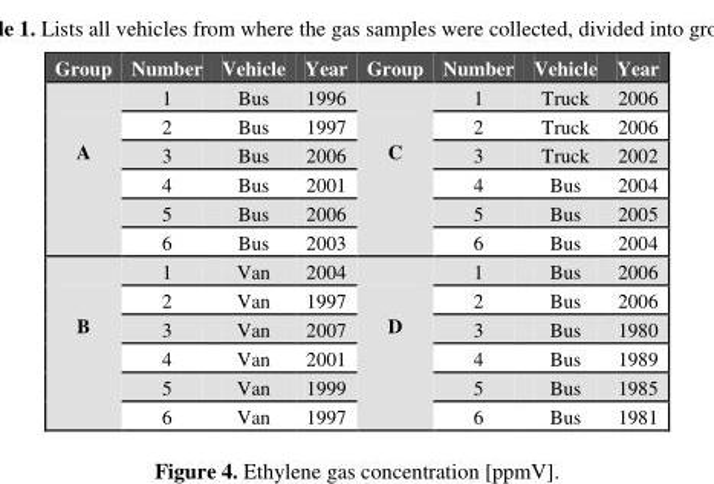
<table><thead><tr><td>Group</td><td>Number</td><td>Vehicle</td><td>Year</td><td>Group</td><td>Number</td><td>Vehicle</td><td>Year</td></tr></thead><tbody><tr><td rowspan="6">A</td><td>1</td><td>Bus</td><td>1996</td><td rowspan="6">C</td><td>1</td><td>Truck</td><td>2006</td></tr><tr><td>2</td><td>Bus</td><td>1997</td><td>2</td><td>Truck</td><td>2006</td></tr><tr><td>3</td><td>Bus</td><td>2006</td><td>3</td><td>Truck</td><td>2002</td></tr><tr><td>4</td><td>Bus</td><td>2001</td><td>4</td><td>Bus</td><td>2004</td></tr><tr><td>5</td><td>Bus</td><td>2006</td><td>5</td><td>Bus</td><td>2005</td></tr><tr><td>6</td><td>Bus</td><td>2003</td><td>6</td><td>Bus</td><td>2004</td></tr><tr><td rowspan="6">B</td><td>1</td><td>Van</td><td>2004</td><td rowspan="6">D</td><td>1</td><td>Bus</td><td>2006</td></tr><tr><td>2</td><td>Van</td><td>1997</td><td>2</td><td>Bus</td><td>2006</td></tr><tr><td>3</td><td>Van</td><td>2007</td><td>3</td><td>Bus</td><td>1980</td></tr><tr><td>4</td><td>Van</td><td>2001</td><td>4</td><td>Bus</td><td>1989</td></tr><tr><td>5</td><td>Van</td><td>1999</td><td>5</td><td>Bus</td><td>1985</td></tr><tr><td>6</td><td>Van</td><td>1997</td><td>6</td><td>Bus</td><td>1981</td></tr></tbody></table>